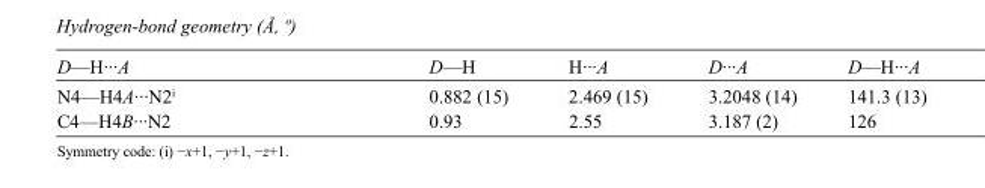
<table><tbody><tr><td>D—H···A</td><td>D—H</td><td>H···A</td><td>D···A</td><td>D—H···A</td></tr><tr><td>N4—H4A···N2<sup>i</sup></td><td>0.882 (15)</td><td>2.469 (15)</td><td>3.2048 (14)</td><td>141.3 (13)</td></tr><tr><td>C4—H4B···N2</td><td>0.93</td><td>2.55</td><td>3.187 (2)</td><td>126</td></tr></tbody></table>